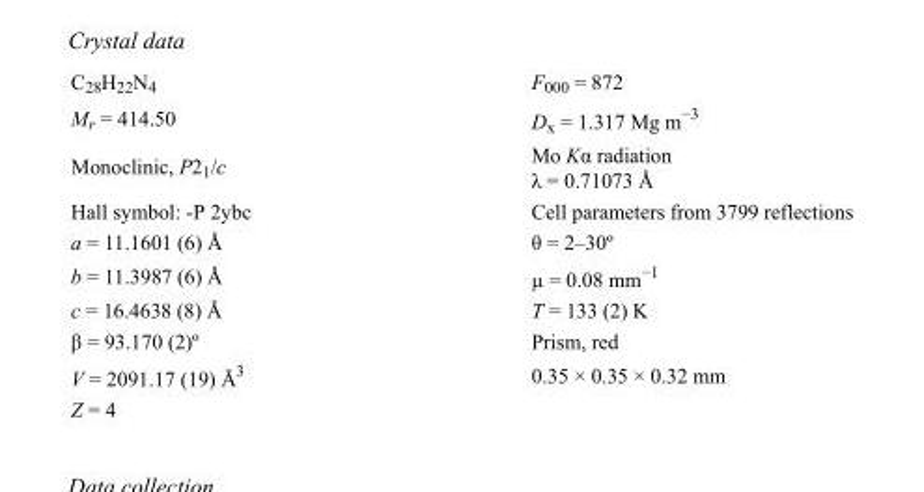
<table><tbody><tr><td>C<sub>28</sub>H<sub>22</sub>N<sub>4</sub></td><td>F<sub>000</sub> = 872</td></tr><tr><td>M<sub>r</sub> = 414.50</td><td>D<sub>x</sub> = 1.317 Mg m<sup>−3</sup></td></tr><tr><td>Monoclinic, P2<sub>1</sub>/c</td><td>Mo Kα radiation λ = 0.71073 Å</td></tr><tr><td>Hall symbol: -P 2ybc</td><td>Cell parameters from 3799 reflections</td></tr><tr><td>a = 11.1601 (6) Å</td><td>θ = 2–30º</td></tr><tr><td>b = 11.3987 (6) Å</td><td>µ = 0.08 mm<sup>−1</sup></td></tr><tr><td>c = 16.4638 (8) Å</td><td>T = 133 (2) K</td></tr><tr><td>β = 93.170 (2)º</td><td>Prism, red</td></tr><tr><td>V = 2091.17 (19) Å<sup>3</sup></td><td>0.35 × 0.35 × 0.32 mm</td></tr><tr><td>Z = 4</td><td></td></tr></tbody></table>